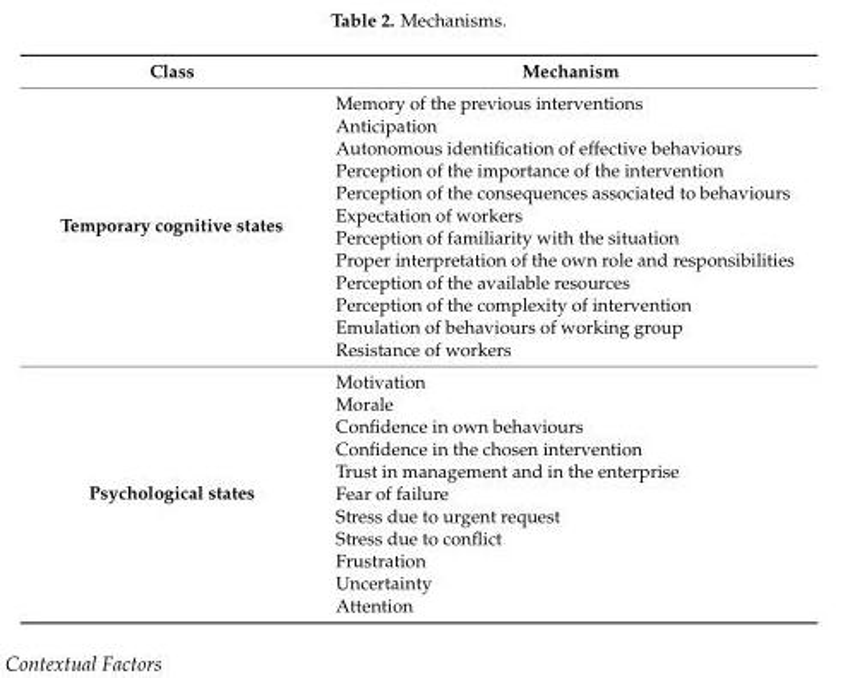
<table><thead><tr><td>Class</td><td>Mechanism</td></tr></thead><tbody><tr><td rowspan="12">Temporary cognitive states</td><td>Memory of the previous interventions</td></tr><tr><td>Anticipation</td></tr><tr><td>Autonomous identification of effective behaviours</td></tr><tr><td>Perception of the importance of the intervention</td></tr><tr><td>Perception of the consequences associated to behaviours</td></tr><tr><td>Expectation of workers</td></tr><tr><td>Perception of familiarity with the situation</td></tr><tr><td>Proper interpretation of the own role and responsibilities</td></tr><tr><td>Perception of the available resources</td></tr><tr><td>Perception of the complexity of intervention</td></tr><tr><td>Emulation of behaviours of working group</td></tr><tr><td>Resistance of workers</td></tr><tr><td rowspan="11">Psychological states</td><td>Motivation</td></tr><tr><td>Morale</td></tr><tr><td>Confidence in own behaviours</td></tr><tr><td>Confidence in the chosen intervention</td></tr><tr><td>Trust in management and in the enterprise</td></tr><tr><td>Fear of failure</td></tr><tr><td>Stress due to urgent request</td></tr><tr><td>Stress due to conflict</td></tr><tr><td>Frustration</td></tr><tr><td>Uncertainty</td></tr><tr><td>Attention</td></tr></tbody></table>